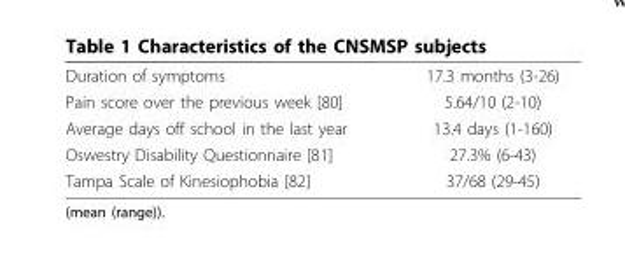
<table><tbody><tr><td>Duration of symptoms</td><td>17.3 months (3-26)</td></tr><tr><td>Pain score over the previous week [80]</td><td>5.64/10 (2-10)</td></tr><tr><td>Average days off school in the last year</td><td>13.4 days (1-160)</td></tr><tr><td>Oswestry Disability Questionnaire [81]</td><td>27.3% (6-43)</td></tr><tr><td>Tampa Scale of Kinesiophobia [82]</td><td>37/68 (29-45)</td></tr></tbody></table>